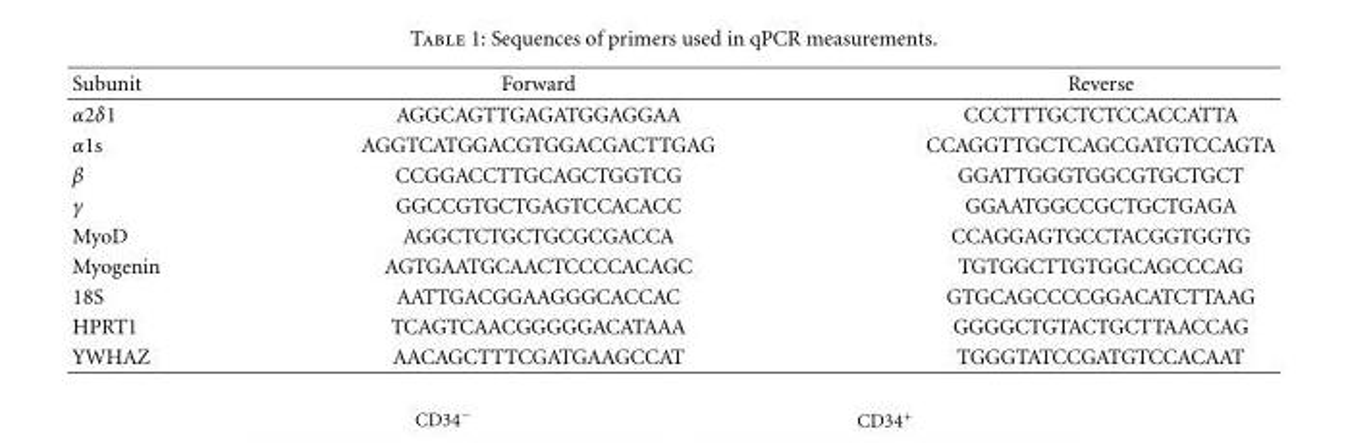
<table><thead><tr><td>Subunit</td><td>Forward</td><td>Reverse</td></tr></thead><tbody><tr><td>α2δ1</td><td>AGGCAGTTGAGATGGAGGAA</td><td>CCCTTTGCTCTCCACCATTA</td></tr><tr><td>α1s</td><td>AGGTCATGGACGTGGACGACTTGAG</td><td>CCAGGTTGCTCAGCGATGTCCAGTA</td></tr><tr><td>β</td><td>CCGGACCTTGCAGCTGGTCG</td><td>GGATTGGGTGGCGTGCTGCT</td></tr><tr><td>γ</td><td>GGCCGTGCTGAGTCCACACC</td><td>GGAATGGCCGCTGCTGAGA</td></tr><tr><td>MyoD</td><td>AGGCTCTGCTGCGCGACCA</td><td>CCAGGAGTGCCTACGGTGGTG</td></tr><tr><td>Myogenin</td><td>AGTGAATGCAACTCCCCACAGC</td><td>TGTGGCTTGTGGCAGCCCAG</td></tr><tr><td>18S</td><td>AATTGACGGAAGGGCACCAC</td><td>GTGCAGCCCCGGACATCTTAAG</td></tr><tr><td>HPRT1</td><td>TCAGTCAACGGGGGACATAAA</td><td>GGGGCTGTACTGCTTAACCAG</td></tr><tr><td>YWHAZ</td><td>AACAGCTTTCGATGAAGCCAT</td><td>TGGGTATCCGATGTCCACAAT</td></tr></tbody></table>